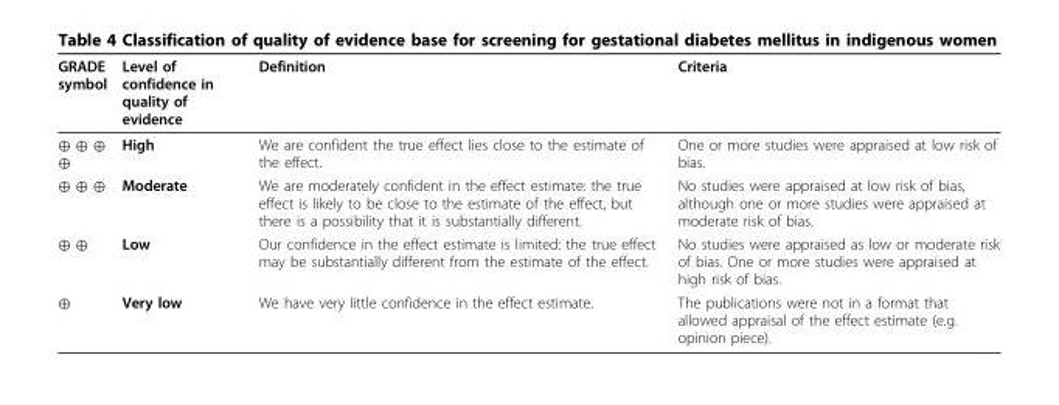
<table><thead><tr><td>GRADE symbol</td><td>Level of confidence in quality of evidence</td><td>Definition</td><td>Criteria</td></tr></thead><tbody><tr><td>⊕ ⊕ ⊕ ⊕</td><td>High</td><td>We are confident the true effect lies close to the estimate of the effect.</td><td>One or more studies were appraised at low risk of bias.</td></tr><tr><td>⊕ ⊕ ⊕</td><td>Moderate</td><td>We are moderately confident in the effect estimate: the true effect is likely to be close to the estimate of the effect, but there is a possibility that it is substantially different.</td><td>No studies were appraised at low risk of bias, although one or more studies were appraised at moderate risk of bias.</td></tr><tr><td>⊕ ⊕</td><td>Low</td><td>Our confidence in the effect estimate is limited: the true effect may be substantially different from the estimate of the effect.</td><td>No studies were appraised as low or moderate risk of bias. One or more studies were appraised at high risk of bias.</td></tr><tr><td>⊕</td><td>Very low</td><td>We have very little confidence in the effect estimate.</td><td>The publications were not in a format that allowed appraisal of the effect estimate (e.g. opinion piece).</td></tr></tbody></table>